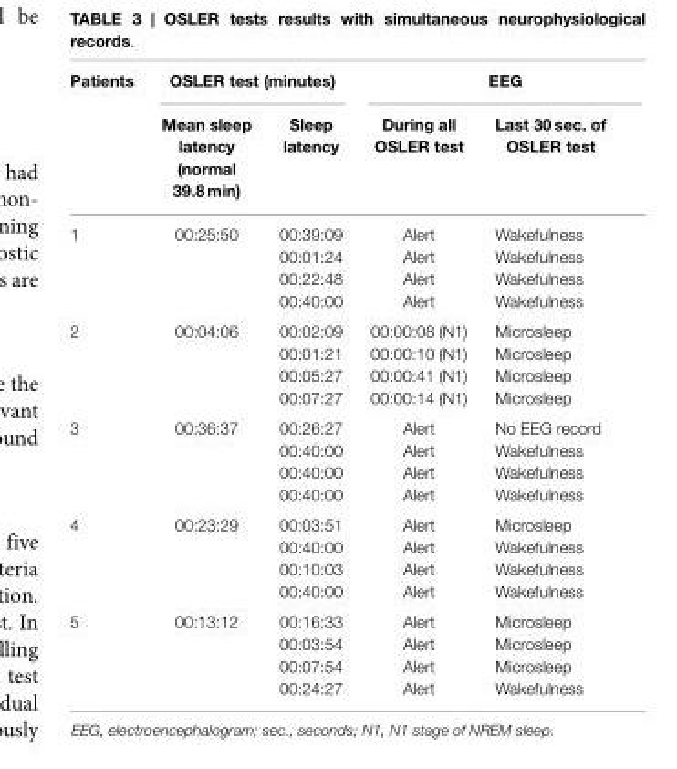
<table><thead><tr><td rowspan="2">Patients</td><td colspan="2">OSLER test (minutes)</td><td colspan="2">EEG</td></tr><tr><td>Mean sleep latency (normal 39.8 min)</td><td>Sleep latency</td><td>During all OSLER test</td><td>Last 30 sec. of OSLER test</td></tr></thead><tbody><tr><td rowspan="4">1</td><td>00:25:50</td><td>00:39:09</td><td>Alert</td><td>Wakefulness</td></tr><tr><td></td><td>00:01:24</td><td>Alert</td><td>Wakefulness</td></tr><tr><td></td><td>00:22:48</td><td>Alert</td><td>Wakefulness</td></tr><tr><td></td><td>00:40:00</td><td>Alert</td><td>Wakefulness</td></tr><tr><td rowspan="4">2</td><td>00:04:06</td><td>00:02:09</td><td>00:00:08 (N1)</td><td>Microsleep</td></tr><tr><td></td><td>00:01:21</td><td>00:00:10 (N1)</td><td>Microsleep</td></tr><tr><td></td><td>00:05:27</td><td>00:00:41 (N1)</td><td>Microsleep</td></tr><tr><td></td><td>00:07:27</td><td>00:00:14 (N1)</td><td>Microsleep</td></tr><tr><td rowspan="4">3</td><td>00:36:37</td><td>00:26:27</td><td>Alert</td><td>No EEG record</td></tr><tr><td></td><td>00:40:00</td><td>Alert</td><td>Wakefulness</td></tr><tr><td></td><td>00:40:00</td><td>Alert</td><td>Wakefulness</td></tr><tr><td></td><td>00:40:00</td><td>Alert</td><td>Wakefulness</td></tr><tr><td rowspan="4">4</td><td>00:23:29</td><td>00:03:51</td><td>Alert</td><td>Microsleep</td></tr><tr><td></td><td>00:40:00</td><td>Alert</td><td>Wakefulness</td></tr><tr><td></td><td>00:10:03</td><td>Alert</td><td>Wakefulness</td></tr><tr><td></td><td>00:40:00</td><td>Alert</td><td>Wakefulness</td></tr><tr><td rowspan="4">5</td><td>00:13:12</td><td>00:16:33</td><td>Alert</td><td>Microsleep</td></tr><tr><td></td><td>00:03:54</td><td>Alert</td><td>Microsleep</td></tr><tr><td></td><td>00:07:54</td><td>Alert</td><td>Microsleep</td></tr><tr><td></td><td>00:24:27</td><td>Alert</td><td>Wakefulness</td></tr></tbody></table>